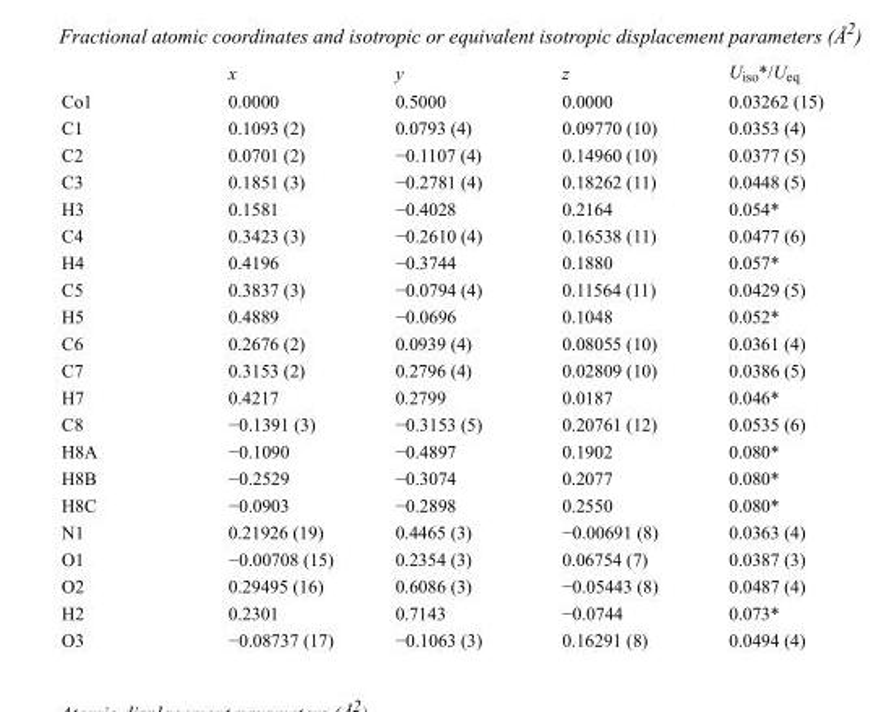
<table><thead><tr><td></td><td>x</td><td>y</td><td>z</td><td>U<sub>iso</sub>*/U<sub>eq</sub></td></tr></thead><tbody><tr><td>Co1</td><td>0.0000</td><td>0.5000</td><td>0.0000</td><td>0.03262 (15)</td></tr><tr><td>C1</td><td>0.1093 (2)</td><td>0.0793 (4)</td><td>0.09770 (10)</td><td>0.0353 (4)</td></tr><tr><td>C2</td><td>0.0701 (2)</td><td>−0.1107 (4)</td><td>0.14960 (10)</td><td>0.0377 (5)</td></tr><tr><td>C3</td><td>0.1851 (3)</td><td>−0.2781 (4)</td><td>0.18262 (11)</td><td>0.0448 (5)</td></tr><tr><td>H3</td><td>0.1581</td><td>−0.4028</td><td>0.2164</td><td>0.054*</td></tr><tr><td>C4</td><td>0.3423 (3)</td><td>−0.2610 (4)</td><td>0.16538 (11)</td><td>0.0477 (6)</td></tr><tr><td>H4</td><td>0.4196</td><td>−0.3744</td><td>0.1880</td><td>0.057*</td></tr><tr><td>C5</td><td>0.3837 (3)</td><td>−0.0794 (4)</td><td>0.11564 (11)</td><td>0.0429 (5)</td></tr><tr><td>H5</td><td>0.4889</td><td>−0.0696</td><td>0.1048</td><td>0.052*</td></tr><tr><td>C6</td><td>0.2676 (2)</td><td>0.0939 (4)</td><td>0.08055 (10)</td><td>0.0361 (4)</td></tr><tr><td>C7</td><td>0.3153 (2)</td><td>0.2796 (4)</td><td>0.02809 (10)</td><td>0.0386 (5)</td></tr><tr><td>H7</td><td>0.4217</td><td>0.2799</td><td>0.0187</td><td>0.046*</td></tr><tr><td>C8</td><td>−0.1391 (3)</td><td>−0.3153 (5)</td><td>0.20761 (12)</td><td>0.0535 (6)</td></tr><tr><td>H8A</td><td>−0.1090</td><td>−0.4897</td><td>0.1902</td><td>0.080*</td></tr><tr><td>H8B</td><td>−0.2529</td><td>−0.3074</td><td>0.2077</td><td>0.080*</td></tr><tr><td>H8C</td><td>−0.0903</td><td>−0.2898</td><td>0.2550</td><td>0.080*</td></tr><tr><td>N1</td><td>0.21926 (19)</td><td>0.4465 (3)</td><td>−0.00691 (8)</td><td>0.0363 (4)</td></tr><tr><td>O1</td><td>−0.00708 (15)</td><td>0.2354 (3)</td><td>0.06754 (7)</td><td>0.0387 (3)</td></tr><tr><td>O2</td><td>0.29495 (16)</td><td>0.6086 (3)</td><td>−0.05443 (8)</td><td>0.0487 (4)</td></tr><tr><td>H2</td><td>0.2301</td><td>0.7143</td><td>−0.0744</td><td>0.073*</td></tr><tr><td>O3</td><td>−0.08737 (17)</td><td>−0.1063 (3)</td><td>0.16291 (8)</td><td>0.0494 (4)</td></tr></tbody></table>